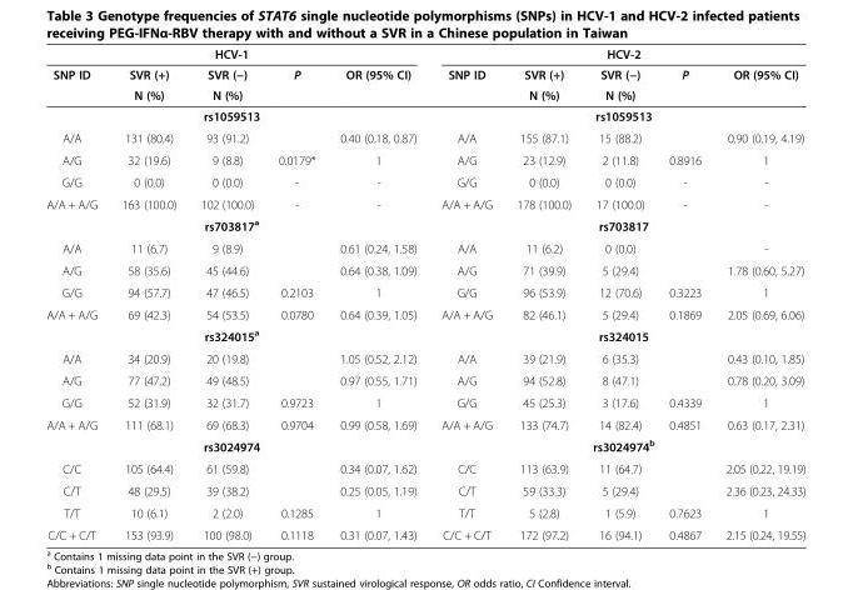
<table><thead><tr><td colspan="5">HCV-1</td><td colspan="5">HCV-2</td></tr><tr><td rowspan="2">SNP ID</td><td rowspan="2">SVR (+) N (%)</td><td rowspan="2">SVR (−) N (%)</td><td rowspan="2">P</td><td rowspan="2">OR (95% CI)</td><td rowspan="2">SNP ID</td><td rowspan="2">SVR (+) N (%)</td><td rowspan="2">SVR (−) N (%)</td><td rowspan="2">P</td><td rowspan="2">OR (95% CI)</td></tr><tr></tr></thead><tbody><tr><td colspan="5">rs1059513</td><td colspan="5">rs1059513</td></tr><tr><td>A/A</td><td>131 (80.4)</td><td>93 (91.2)</td><td></td><td>0.40 (0.18, 0.87)</td><td>A/A</td><td>155 (87.1)</td><td>15 (88.2)</td><td></td><td>0.90 (0.19, 4.19)</td></tr><tr><td>A/G</td><td>32 (19.6)</td><td>9 (8.8)</td><td>0.0179*</td><td>1</td><td>A/G</td><td>23 (12.9)</td><td>2 (11.8)</td><td>0.8916</td><td>1</td></tr><tr><td>G/G</td><td>0 (0.0)</td><td>0 (0.0)</td><td>-</td><td>-</td><td>G/G</td><td>0 (0.0)</td><td>0 (0.0)</td><td>-</td><td>-</td></tr><tr><td>A/A + A/G</td><td>163 (100.0)</td><td>102 (100.0)</td><td>-</td><td>-</td><td>A/A + A/G</td><td>178 (100.0)</td><td>17 (100.0)</td><td>-</td><td>-</td></tr><tr><td colspan="5">rs703817<sup>a</sup></td><td colspan="5">rs703817</td></tr><tr><td>A/A</td><td>11 (6.7)</td><td>9 (8.9)</td><td></td><td>0.61 (0.24, 1.58)</td><td>A/A</td><td>11 (6.2)</td><td>0 (0.0)</td><td></td><td>-</td></tr><tr><td>A/G</td><td>58 (35.6)</td><td>45 (44.6)</td><td></td><td>0.64 (0.38, 1.09)</td><td>A/G</td><td>71 (39.9)</td><td>5 (29.4)</td><td></td><td>1.78 (0.60, 5.27)</td></tr><tr><td>G/G</td><td>94 (57.7)</td><td>47 (46.5)</td><td>0.2103</td><td>1</td><td>G/G</td><td>96 (53.9)</td><td>12 (70.6)</td><td>0.3223</td><td>1</td></tr><tr><td>A/A + A/G</td><td>69 (42.3)</td><td>54 (53.5)</td><td>0.0780</td><td>0.64 (0.39, 1.05)</td><td>A/A + A/G</td><td>82 (46.1)</td><td>5 (29.4)</td><td>0.1869</td><td>2.05 (0.69, 6.06)</td></tr><tr><td colspan="5">rs324015<sup>a</sup></td><td colspan="5">rs324015</td></tr><tr><td>A/A</td><td>34 (20.9)</td><td>20 (19.8)</td><td></td><td>1.05 (0.52, 2.12)</td><td>A/A</td><td>39 (21.9)</td><td>6 (35.3)</td><td></td><td>0.43 (0.10, 1.85)</td></tr><tr><td>A/G</td><td>77 (47.2)</td><td>49 (48.5)</td><td></td><td>0.97 (0.55, 1.71)</td><td>A/G</td><td>94 (52.8)</td><td>8 (47.1)</td><td></td><td>0.78 (0.20, 3.09)</td></tr><tr><td>G/G</td><td>52 (31.9)</td><td>32 (31.7)</td><td>0.9723</td><td>1</td><td>G/G</td><td>45 (25.3)</td><td>3 (17.6)</td><td>0.4339</td><td>1</td></tr><tr><td>A/A + A/G</td><td>111 (68.1)</td><td>69 (68.3)</td><td>0.9704</td><td>0.99 (0.58, 1.69)</td><td>A/A + A/G</td><td>133 (74.7)</td><td>14 (82.4)</td><td>0.4851</td><td>0.63 (0.17, 2.31)</td></tr><tr><td colspan="5">rs3024974</td><td colspan="5">rs3024974<sup>b</sup></td></tr><tr><td>C/C</td><td>105 (64.4)</td><td>61 (59.8)</td><td></td><td>0.34 (0.07, 1.62)</td><td>C/C</td><td>113 (63.9)</td><td>11 (64.7)</td><td></td><td>2.05 (0.22, 19.19)</td></tr><tr><td>C/T</td><td>48 (29.5)</td><td>39 (38.2)</td><td></td><td>0.25 (0.05, 1.19)</td><td>C/T</td><td>59 (33.3)</td><td>5 (29.4)</td><td></td><td>2.36 (0.23, 24.33)</td></tr><tr><td>T/T</td><td>10 (6.1)</td><td>2 (2.0)</td><td>0.1285</td><td>1</td><td>T/T</td><td>5 (2.8)</td><td>1 (5.9)</td><td>0.7623</td><td>1</td></tr><tr><td>C/C + C/T</td><td>153 (93.9)</td><td>100 (98.0)</td><td>0.1118</td><td>0.31 (0.07, 1.43)</td><td>C/C + C/T</td><td>172 (97.2)</td><td>16 (94.1)</td><td>0.4867</td><td>2.15 (0.24, 19.55)</td></tr></tbody></table>